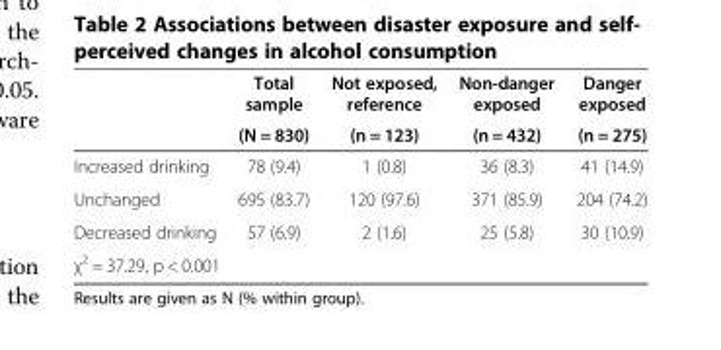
<table><thead><tr><td rowspan="2"></td><td rowspan="2">Total sample (N = 830)</td><td rowspan="2">Not exposed, reference (n = 123)</td><td rowspan="2">Non-danger exposed (n = 432)</td><td rowspan="2">Danger exposed (n = 275)</td></tr><tr></tr></thead><tbody><tr><td>Increased drinking</td><td>78 (9.4)</td><td>1 (0.8)</td><td>36 (8.3)</td><td>41 (14.9)</td></tr><tr><td>Unchanged</td><td>695 (83.7)</td><td>120 (97.6)</td><td>371 (85.9)</td><td>204 (74.2)</td></tr><tr><td>Decreased drinking</td><td>57 (6.9)</td><td>2 (1.6)</td><td>25 (5.8)</td><td>30 (10.9)</td></tr><tr><td colspan="5">χ<sup>2</sup> = 37.29, p &lt; 0.001</td></tr></tbody></table>